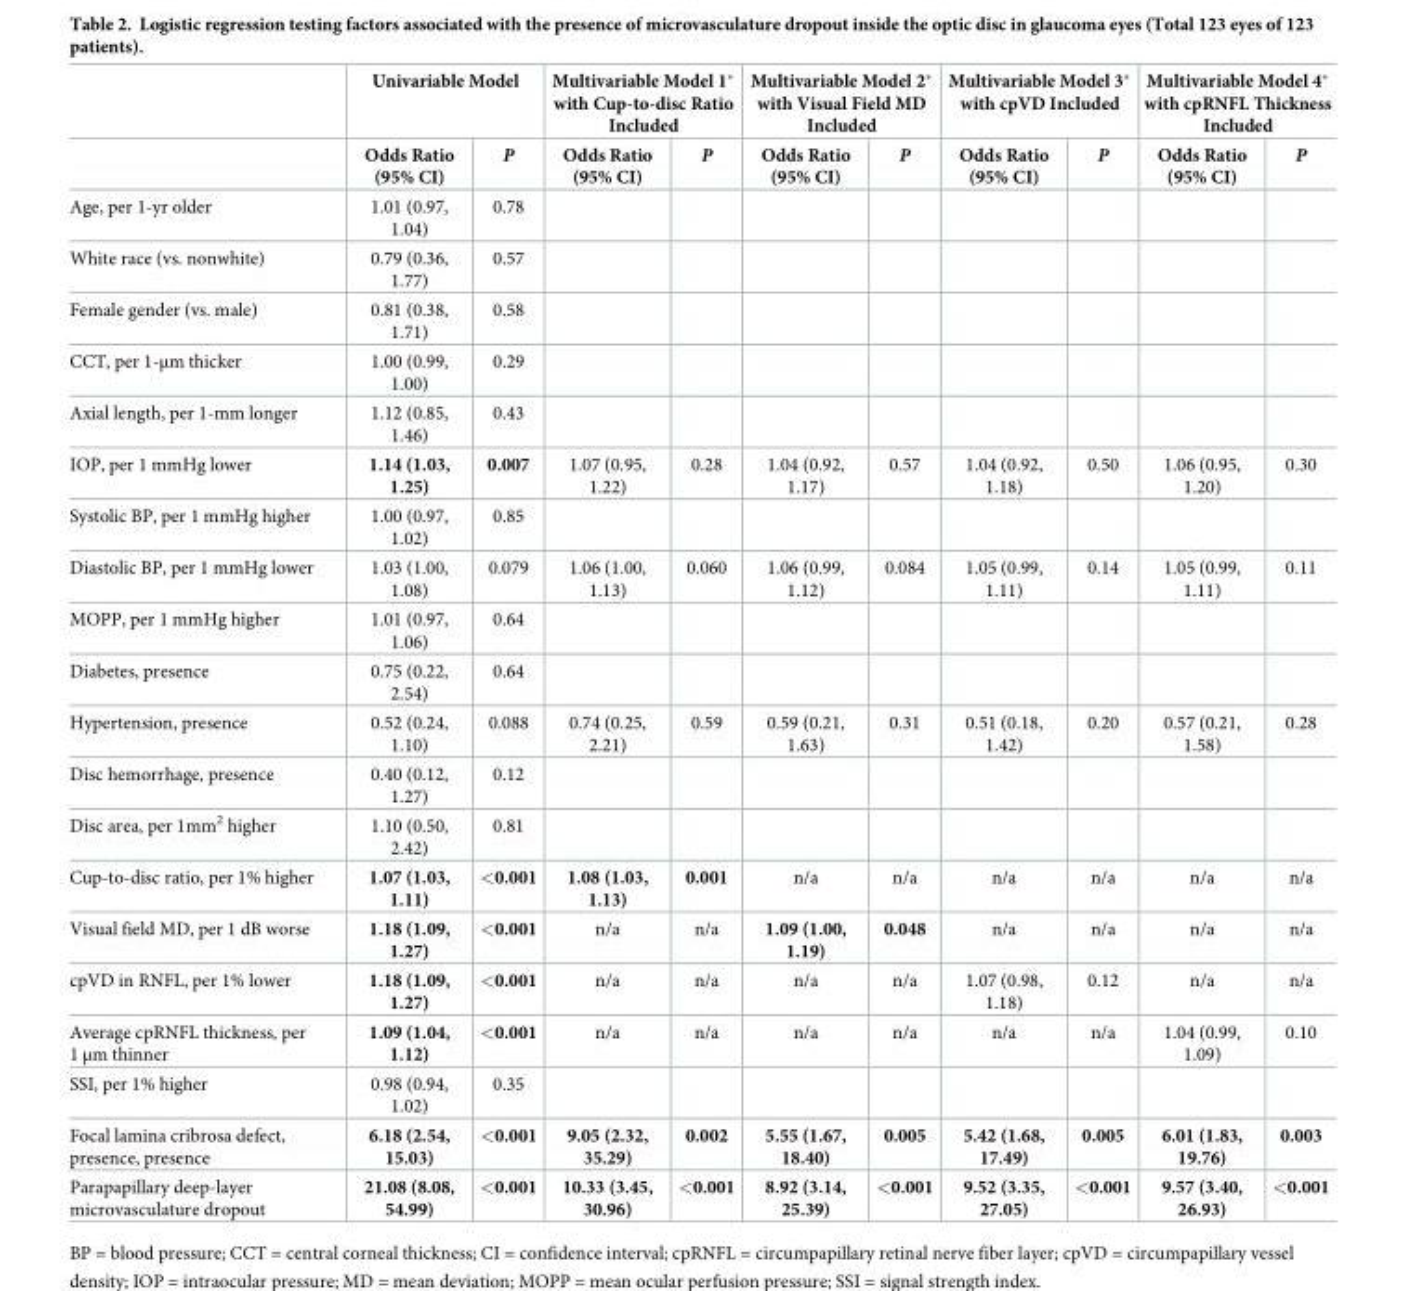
<table><thead><tr><td rowspan="2"></td><td colspan="2">Univariable Model</td><td colspan="2">Multivariable Model 1* with Cup-to-disc Ratio Included</td><td colspan="2">Multivariable Model 2* with Visual Field MD Included</td><td colspan="2">Multivariable Model 3* with cpVD Included</td><td colspan="2">Multivariable Model 4* with cpRNFL Thickness Included</td></tr><tr><td>Odds Ratio (95% CI)</td><td>P</td><td>Odds Ratio (95% CI)</td><td>P</td><td>Odds Ratio (95% CI)</td><td>P</td><td>Odds Ratio (95% CI)</td><td>P</td><td>Odds Ratio (95% CI)</td><td>P</td></tr></thead><tbody><tr><td>Age, per 1-yr older</td><td>1.01 (0.97, 1.04)</td><td>0.78</td><td></td><td></td><td></td><td></td><td></td><td></td><td></td><td></td></tr><tr><td>White race (vs. nonwhite)</td><td>0.79 (0.36, 1.77)</td><td>0.57</td><td></td><td></td><td></td><td></td><td></td><td></td><td></td><td></td></tr><tr><td>Female gender (vs. male)</td><td>0.81 (0.38, 1.71)</td><td>0.58</td><td></td><td></td><td></td><td></td><td></td><td></td><td></td><td></td></tr><tr><td>CCT, per 1-μm thicker</td><td>1.00 (0.99, 1.00)</td><td>0.29</td><td></td><td></td><td></td><td></td><td></td><td></td><td></td><td></td></tr><tr><td>Axial length, per 1-mm longer</td><td>1.12 (0.85, 1.46)</td><td>0.43</td><td></td><td></td><td></td><td></td><td></td><td></td><td></td><td></td></tr><tr><td>IOP, per 1 mmHg lower</td><td>1.14 (1.03, 1.25)</td><td>0.007</td><td>1.07 (0.95, 1.22)</td><td>0.28</td><td>1.04 (0.92, 1.17)</td><td>0.57</td><td>1.04 (0.92, 1.18)</td><td>0.50</td><td>1.06 (0.95, 1.20)</td><td>0.30</td></tr><tr><td>Systolic BP, per 1 mmHg higher</td><td>1.00 (0.97, 1.02)</td><td>0.85</td><td></td><td></td><td></td><td></td><td></td><td></td><td></td><td></td></tr><tr><td>Diastolic BP, per 1 mmHg lower</td><td>1.03 (1.00, 1.08)</td><td>0.079</td><td>1.06 (1.00, 1.13)</td><td>0.060</td><td>1.06 (0.99, 1.12)</td><td>0.084</td><td>1.05 (0.99, 1.11)</td><td>0.14</td><td>1.05 (0.99, 1.11)</td><td>0.11</td></tr><tr><td>MOPP, per 1 mmHg higher</td><td>1.01 (0.97, 1.06)</td><td>0.64</td><td></td><td></td><td></td><td></td><td></td><td></td><td></td><td></td></tr><tr><td>Diabetes, presence</td><td>0.75 (0.22, 2.54)</td><td>0.64</td><td></td><td></td><td></td><td></td><td></td><td></td><td></td><td></td></tr><tr><td>Hypertension, presence</td><td>0.52 (0.24, 1.10)</td><td>0.088</td><td>0.74 (0.25, 2.21)</td><td>0.59</td><td>0.59 (0.21, 1.63)</td><td>0.31</td><td>0.51 (0.18, 1.42)</td><td>0.20</td><td>0.57 (0.21, 1.58)</td><td>0.28</td></tr><tr><td>Disc hemorrhage, presence</td><td>0.40 (0.12, 1.27)</td><td>0.12</td><td></td><td></td><td></td><td></td><td></td><td></td><td></td><td></td></tr><tr><td>Disc area, per 1mm<sup>2</sup> higher</td><td>1.10 (0.50, 2.42)</td><td>0.81</td><td></td><td></td><td></td><td></td><td></td><td></td><td></td><td></td></tr><tr><td>Cup-to-disc ratio, per 1% higher</td><td>1.07 (1.03, 1.11)</td><td>&lt;0.001</td><td>1.08 (1.03, 1.13)</td><td>0.001</td><td>n/a</td><td>n/a</td><td>n/a</td><td>n/a</td><td>n/a</td><td>n/a</td></tr><tr><td>Visual field MD, per 1 dB worse</td><td>1.18 (1.09, 1.27)</td><td>&lt;0.001</td><td>n/a</td><td>n/a</td><td>1.09 (1.00, 1.19)</td><td>0.048</td><td>n/a</td><td>n/a</td><td>n/a</td><td>n/a</td></tr><tr><td>cpVD in RNFL, per 1% lower</td><td>1.18 (1.09, 1.27)</td><td>&lt;0.001</td><td>n/a</td><td>n/a</td><td>n/a</td><td>n/a</td><td>1.07 (0.98, 1.18)</td><td>0.12</td><td>n/a</td><td>n/a</td></tr><tr><td>Average cpRNFL thickness, per 1 μm thinner</td><td>1.09 (1.04, 1.12)</td><td>&lt;0.001</td><td>n/a</td><td>n/a</td><td>n/a</td><td>n/a</td><td>n/a</td><td>n/a</td><td>1.04 (0.99, 1.09)</td><td>0.10</td></tr><tr><td>SSI, per 1% higher</td><td>0.98 (0.94, 1.02)</td><td>0.35</td><td></td><td></td><td></td><td></td><td></td><td></td><td></td><td></td></tr><tr><td>Focal lamina cribrosa defect, presence, presence</td><td>6.18 (2.54, 15.03)</td><td>&lt;0.001</td><td>9.05 (2.32, 35.29)</td><td>0.002</td><td>5.55 (1.67, 18.40)</td><td>0.005</td><td>5.42 (1.68, 17.49)</td><td>0.005</td><td>6.01 (1.83, 19.76)</td><td>0.003</td></tr><tr><td>Parapapillary deep-layer microvasculature dropout</td><td>21.08 (8.08, 54.99)</td><td>&lt;0.001</td><td>10.33 (3.45, 30.96)</td><td>&lt;0.001</td><td>8.92 (3.14, 25.39)</td><td>&lt;0.001</td><td>9.52 (3.35, 27.05)</td><td>&lt;0.001</td><td>9.57 (3.40, 26.93)</td><td>&lt;0.001</td></tr></tbody></table>